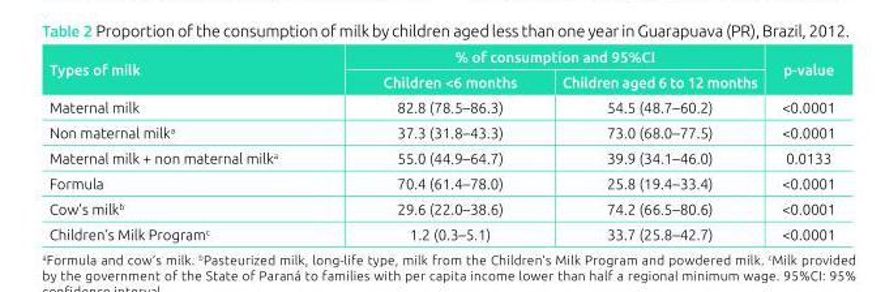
<table><thead><tr><td rowspan="2">Types of milk</td><td colspan="2">% of consumption and 95%CI</td><td rowspan="2">p‑value</td></tr><tr><td>Children &lt;6 months</td><td>Children aged 6 to 12 months</td></tr></thead><tbody><tr><td>Maternal milk</td><td>82.8 (78.5–86.3)</td><td>54.5 (48.7–60.2)</td><td>&lt;0.0001</td></tr><tr><td>Non maternal milk<sup>a</sup></td><td>37.3 (31.8–43.3)</td><td>73.0 (68.0–77.5)</td><td>&lt;0.0001</td></tr><tr><td>Maternal milk + non maternal milk<sup>a</sup></td><td>55.0 (44.9–64.7)</td><td>39.9 (34.1–46.0)</td><td>0.0133</td></tr><tr><td>Formula</td><td>70.4 (61.4–78.0)</td><td>25.8 (19.4–33.4)</td><td>&lt;0.0001</td></tr><tr><td>Cow’s milk<sup>b</sup></td><td>29.6 (22.0–38.6)</td><td>74.2 (66.5–80.6)</td><td>&lt;0.0001</td></tr><tr><td>Children’s Milk Program<sup>c</sup></td><td>1.2 (0.3–5.1)</td><td>33.7 (25.8–42.7)</td><td>&lt;0.0001</td></tr></tbody></table>